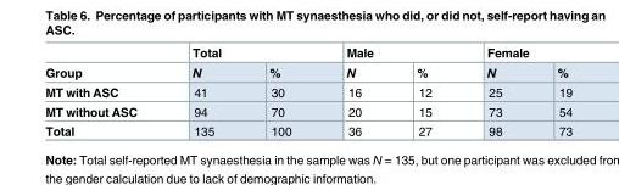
<table><thead><tr><td rowspan="2">Group</td><td colspan="2">Total</td><td colspan="2">Male</td><td colspan="2">Female</td></tr><tr><td>N</td><td>%</td><td>N</td><td>%</td><td>N</td><td>%</td></tr></thead><tbody><tr><td>MT with ASC</td><td>41</td><td>30</td><td>16</td><td>12</td><td>25</td><td>19</td></tr><tr><td>MT without ASC</td><td>94</td><td>70</td><td>20</td><td>15</td><td>73</td><td>54</td></tr><tr><td>Total</td><td>135</td><td>100</td><td>36</td><td>27</td><td>98</td><td>73</td></tr></tbody></table>